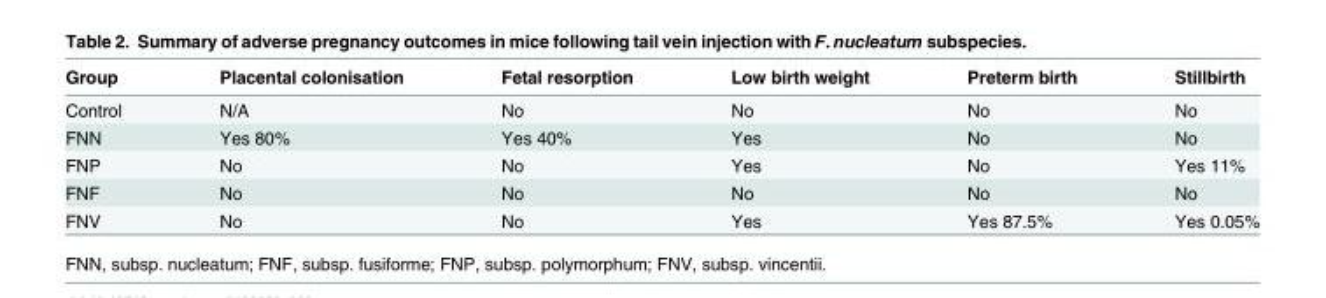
<table><thead><tr><td>Group</td><td>Placental colonisation</td><td>Fetal resorption</td><td>Low birth weight</td><td>Preterm birth</td><td>Stillbirth</td></tr></thead><tbody><tr><td>Control</td><td>N/A</td><td>No</td><td>No</td><td>No</td><td>No</td></tr><tr><td>FNN</td><td>Yes 80%</td><td>Yes 40%</td><td>Yes</td><td>No</td><td>No</td></tr><tr><td>FNP</td><td>No</td><td>No</td><td>Yes</td><td>No</td><td>Yes 11%</td></tr><tr><td>FNF</td><td>No</td><td>No</td><td>No</td><td>No</td><td>No</td></tr><tr><td>FNV</td><td>No</td><td>No</td><td>Yes</td><td>Yes 87.5%</td><td>Yes 0.05%</td></tr></tbody></table>